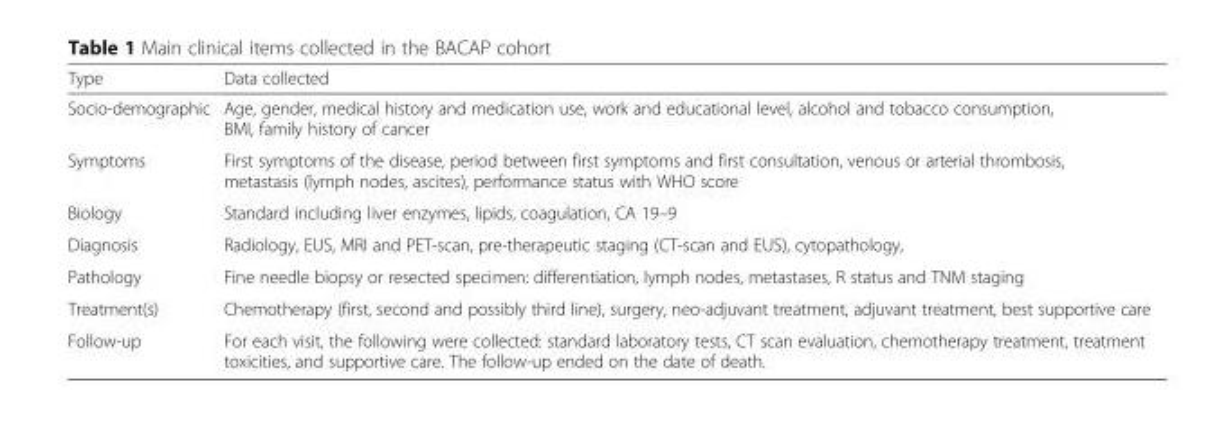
<table><thead><tr><td>Type</td><td>Data collected</td></tr></thead><tbody><tr><td>Socio-demographic</td><td>Age, gender, medical history and medication use, work and educational level, alcohol and tobacco consumption, BMI, family history of cancer</td></tr><tr><td>Symptoms</td><td>First symptoms of the disease, period between first symptoms and first consultation, venous or arterial thrombosis, metastasis (lymph nodes, ascites), performance status with WHO score</td></tr><tr><td>Biology</td><td>Standard including liver enzymes, lipids, coagulation, CA 19–9</td></tr><tr><td>Diagnosis</td><td>Radiology, EUS, MRI and PET-scan, pre-therapeutic staging (CT-scan and EUS), cytopathology,</td></tr><tr><td>Pathology</td><td>Fine needle biopsy or resected specimen: differentiation, lymph nodes, metastases, R status and TNM staging</td></tr><tr><td>Treatment(s)</td><td>Chemotherapy (first, second and possibly third line), surgery, neo-adjuvant treatment, adjuvant treatment, best supportive care</td></tr><tr><td>Follow-up</td><td>For each visit, the following were collected: standard laboratory tests, CT scan evaluation, chemotherapy treatment, treatment toxicities, and supportive care. The follow-up ended on the date of death.</td></tr></tbody></table>